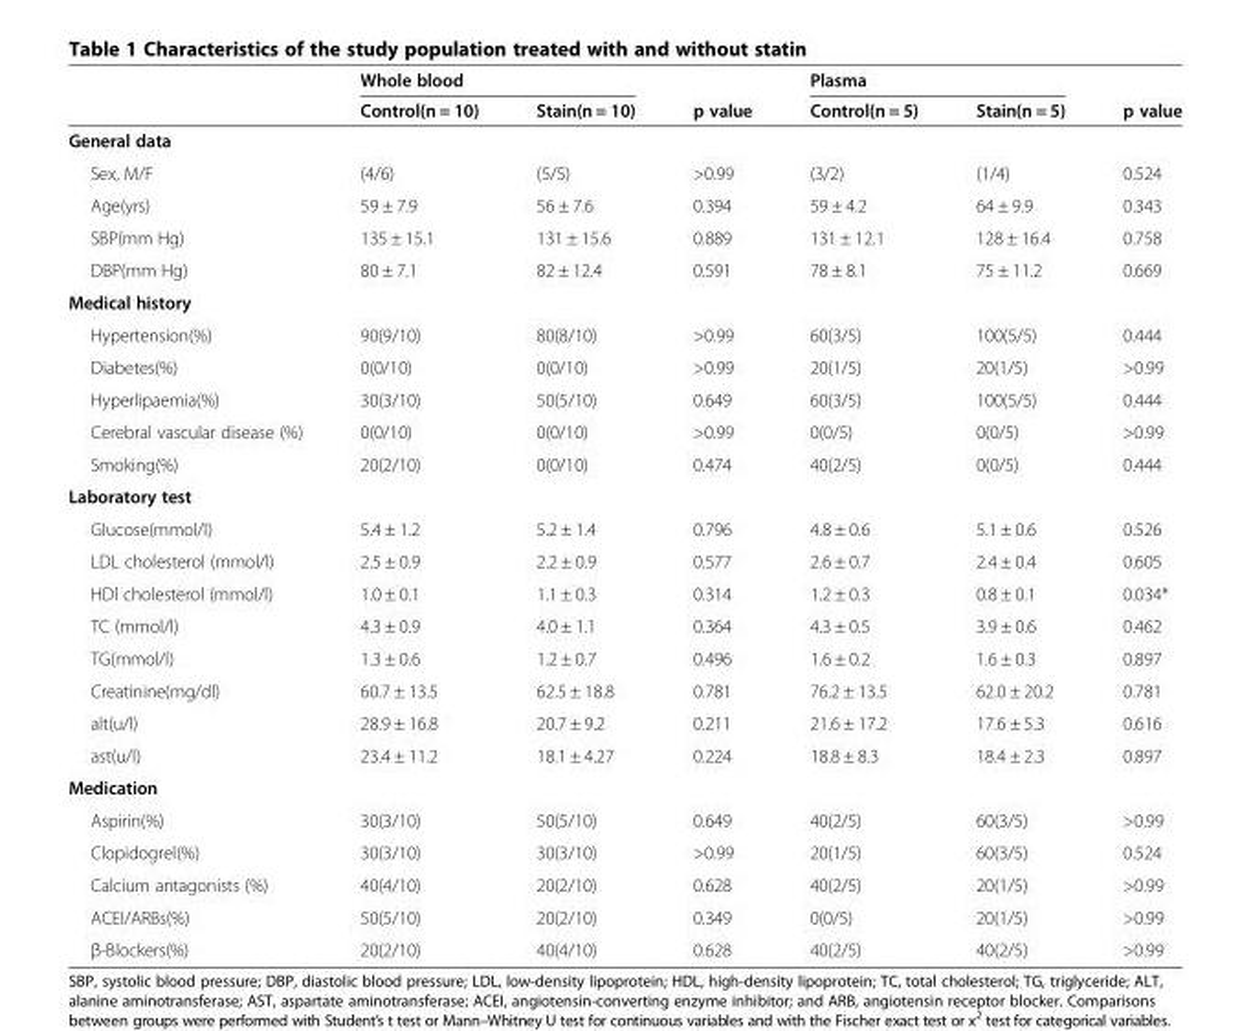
<table><thead><tr><td rowspan="2"></td><td colspan="2">Whole blood</td><td rowspan="2">p value</td><td colspan="2">Plasma</td><td rowspan="2">p value</td></tr><tr><td>Control(n = 10)</td><td>Stain(n = 10)</td><td>Control(n = 5)</td><td>Stain(n = 5)</td></tr></thead><tbody><tr><td colspan="7">General data</td></tr><tr><td>Sex, M/F</td><td>(4/6)</td><td>(5/5)</td><td>&gt;0.99</td><td>(3/2)</td><td>(1/4)</td><td>0.524</td></tr><tr><td>Age(yrs)</td><td>59 ± 7.9</td><td>56 ± 7.6</td><td>0.394</td><td>59 ± 4.2</td><td>64 ± 9.9</td><td>0.343</td></tr><tr><td>SBP(mm Hg)</td><td>135 ± 15.1</td><td>131 ± 15.6</td><td>0.889</td><td>131 ± 12.1</td><td>128 ± 16.4</td><td>0.758</td></tr><tr><td>DBP(mm Hg)</td><td>80 ± 7.1</td><td>82 ± 12.4</td><td>0.591</td><td>78 ± 8.1</td><td>75 ± 11.2</td><td>0.669</td></tr><tr><td colspan="7">Medical history</td></tr><tr><td>Hypertension(%)</td><td>90(9/10)</td><td>80(8/10)</td><td>&gt;0.99</td><td>60(3/5)</td><td>100(5/5)</td><td>0.444</td></tr><tr><td>Diabetes(%)</td><td>0(0/10)</td><td>0(0/10)</td><td>&gt;0.99</td><td>20(1/5)</td><td>20(1/5)</td><td>&gt;0.99</td></tr><tr><td>Hyperlipaemia(%)</td><td>30(3/10)</td><td>50(5/10)</td><td>0.649</td><td>60(3/5)</td><td>100(5/5)</td><td>0.444</td></tr><tr><td>Cerebral vascular disease (%)</td><td>0(0/10)</td><td>0(0/10)</td><td>&gt;0.99</td><td>0(0/5)</td><td>0(0/5)</td><td>&gt;0.99</td></tr><tr><td>Smoking(%)</td><td>20(2/10)</td><td>0(0/10)</td><td>0.474</td><td>40(2/5)</td><td>0(0/5)</td><td>0.444</td></tr><tr><td colspan="7">Laboratory test</td></tr><tr><td>Glucose(mmol/l)</td><td>5.4 ± 1.2</td><td>5.2 ± 1.4</td><td>0.796</td><td>4.8 ± 0.6</td><td>5.1 ± 0.6</td><td>0.526</td></tr><tr><td>LDL cholesterol (mmol/l)</td><td>2.5 ± 0.9</td><td>2.2 ± 0.9</td><td>0.577</td><td>2.6 ± 0.7</td><td>2.4 ± 0.4</td><td>0.605</td></tr><tr><td>HDl cholesterol (mmol/l)</td><td>1.0 ± 0.1</td><td>1.1 ± 0.3</td><td>0.314</td><td>1.2 ± 0.3</td><td>0.8 ± 0.1</td><td>0.034*</td></tr><tr><td>TC (mmol/l)</td><td>4.3 ± 0.9</td><td>4.0 ± 1.1</td><td>0.364</td><td>4.3 ± 0.5</td><td>3.9 ± 0.6</td><td>0.462</td></tr><tr><td>TG(mmol/l)</td><td>1.3 ± 0.6</td><td>1.2 ± 0.7</td><td>0.496</td><td>1.6 ± 0.2</td><td>1.6 ± 0.3</td><td>0.897</td></tr><tr><td>Creatinine(mg/dl)</td><td>60.7 ± 13.5</td><td>62.5 ± 18.8</td><td>0.781</td><td>76.2 ± 13.5</td><td>62.0 ± 20.2</td><td>0.781</td></tr><tr><td>alt(u/l)</td><td>28.9 ± 16.8</td><td>20.7 ± 9.2</td><td>0.211</td><td>21.6 ± 17.2</td><td>17.6 ± 5.3</td><td>0.616</td></tr><tr><td>ast(u/l)</td><td>23.4 ± 11.2</td><td>18.1 ± 4.27</td><td>0.224</td><td>18.8 ± 8.3</td><td>18.4 ± 2.3</td><td>0.897</td></tr><tr><td colspan="7">Medication</td></tr><tr><td>Aspirin(%)</td><td>30(3/10)</td><td>50(5/10)</td><td>0.649</td><td>40(2/5)</td><td>60(3/5)</td><td>&gt;0.99</td></tr><tr><td>Clopidogrel(%)</td><td>30(3/10)</td><td>30(3/10)</td><td>&gt;0.99</td><td>20(1/5)</td><td>60(3/5)</td><td>0.524</td></tr><tr><td>Calcium antagonists (%)</td><td>40(4/10)</td><td>20(2/10)</td><td>0.628</td><td>40(2/5)</td><td>20(1/5)</td><td>&gt;0.99</td></tr><tr><td>ACEI/ARBs(%)</td><td>50(5/10)</td><td>20(2/10)</td><td>0.349</td><td>0(0/5)</td><td>20(1/5)</td><td>&gt;0.99</td></tr><tr><td>β-Blockers(%)</td><td>20(2/10)</td><td>40(4/10)</td><td>0.628</td><td>40(2/5)</td><td>40(2/5)</td><td>&gt;0.99</td></tr></tbody></table>